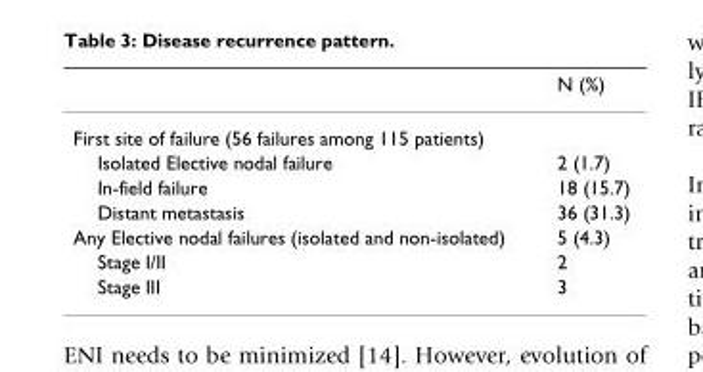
<table><thead><tr><td></td><td>N (%)</td></tr></thead><tbody><tr><td colspan="2">First site of failure (56 failures among 115 patients)</td></tr><tr><td>Isolated Elective nodal failure</td><td>2 (1.7)</td></tr><tr><td>In-field failure</td><td>18 (15.7)</td></tr><tr><td>Distant metastasis</td><td>36 (31.3)</td></tr><tr><td>Any Elective nodal failures (isolated and non-isolated)</td><td>5 (4.3)</td></tr><tr><td>Stage I/II</td><td>2</td></tr><tr><td>Stage III</td><td>3</td></tr></tbody></table>